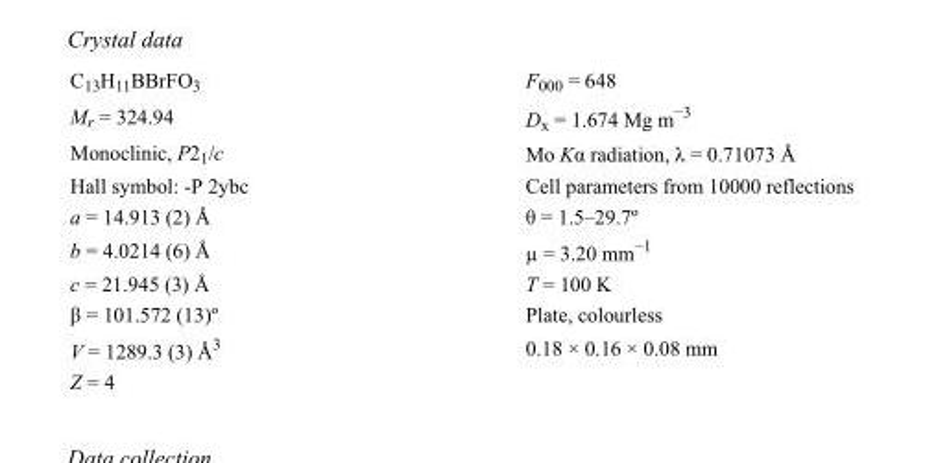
<table><tbody><tr><td>C<sub>13</sub>H<sub>11</sub>BBrFO<sub>3</sub></td><td>F000 = 648</td></tr><tr><td>M<sub>r</sub> = 324.94</td><td>D<sub>x</sub> = 1.674 Mg m<sup>−3</sup></td></tr><tr><td>Monoclinic, P2<sub>1</sub>/c</td><td>Mo Kα radiation, λ = 0.71073 Å</td></tr><tr><td>Hall symbol: -P 2ybc</td><td>Cell parameters from 10000 reflections</td></tr><tr><td>a = 14.913 (2) Å</td><td>θ = 1.5–29.7º</td></tr><tr><td>b = 4.0214 (6) Å</td><td>µ = 3.20 mm<sup>−1</sup></td></tr><tr><td>c = 21.945 (3) Å</td><td>T = 100 K</td></tr><tr><td>β = 101.572 (13)º</td><td>Plate, colourless</td></tr><tr><td>V = 1289.3 (3) Å<sup>3</sup></td><td>0.18 × 0.16 × 0.08 mm</td></tr><tr><td>Z = 4</td><td></td></tr></tbody></table>